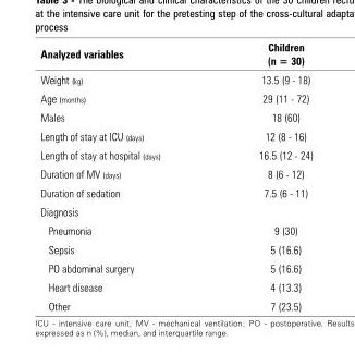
<table><thead><tr><td>Analyzed variables</td><td>Children (n = 30)</td></tr></thead><tbody><tr><td>Weight (kg)</td><td>13.5 (9 - 18)</td></tr><tr><td>Age (months)</td><td>29 (11 - 72)</td></tr><tr><td>Males</td><td>18 (60)</td></tr><tr><td>Length of stay at ICU (days)</td><td>12 (8 - 16)</td></tr><tr><td>Length of stay at hospital (days)</td><td>16.5 (12 - 24)</td></tr><tr><td>Duration of MV (days)</td><td>8 (6 - 12)</td></tr><tr><td>Duration of sedation</td><td>7.5 (6 - 11)</td></tr><tr><td colspan="2">Diagnosis</td></tr><tr><td>Pneumonia</td><td>9 (30)</td></tr><tr><td>Sepsis</td><td>5 (16.6)</td></tr><tr><td>PO abdominal surgery</td><td>5 (16.6)</td></tr><tr><td>Heart disease</td><td>4 (13.3)</td></tr><tr><td>Other</td><td>7 (23.5)</td></tr></tbody></table>